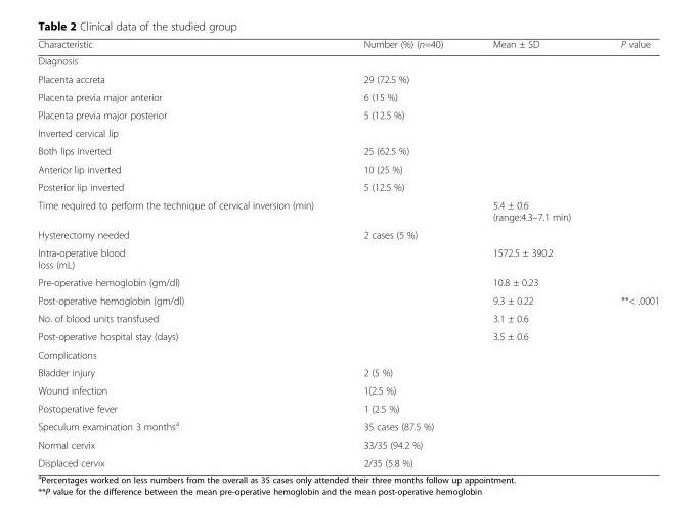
<table><thead><tr><td>Characteristic</td><td>Number (%) (n=40)</td><td>Mean ± SD</td><td>P value</td></tr></thead><tbody><tr><td colspan="4">Diagnosis</td></tr><tr><td>Placenta accreta</td><td>29 (72.5 %)</td><td></td><td></td></tr><tr><td>Placenta previa major anterior</td><td>6 (15 %)</td><td></td><td></td></tr><tr><td>Placenta previa major posterior</td><td>5 (12.5 %)</td><td></td><td></td></tr><tr><td colspan="4">Inverted cervical lip</td></tr><tr><td>Both lips inverted</td><td>25 (62.5 %)</td><td></td><td></td></tr><tr><td>Anterior lip inverted</td><td>10 (25 %)</td><td></td><td></td></tr><tr><td>Posterior lip inverted</td><td>5 (12.5 %)</td><td></td><td></td></tr><tr><td>Time required to perform the technique of cervical inversion (min)</td><td></td><td>5.4 ± 0.6 (range:4.3–7.1 min)</td><td></td></tr><tr><td>Hysterectomy needed</td><td>2 cases (5 %)</td><td></td><td></td></tr><tr><td>Intra-operative blood loss (mL)</td><td></td><td>1572.5 ± 390.2</td><td></td></tr><tr><td>Pre-operative hemoglobin (gm/dl)</td><td></td><td>10.8 ± 0.23</td><td></td></tr><tr><td>Post-operative hemoglobin (gm/dl)</td><td></td><td>9.3 ± 0.22</td><td>**&lt; .0001</td></tr><tr><td>No. of blood units transfused</td><td></td><td>3.1 ± 0.6</td><td></td></tr><tr><td>Post-operative hospital stay (days)</td><td></td><td>3.5 ± 0.6</td><td></td></tr><tr><td colspan="4">Complications</td></tr><tr><td>Bladder injury</td><td>2 (5 %)</td><td></td><td></td></tr><tr><td>Wound infection</td><td>1(2.5 %)</td><td></td><td></td></tr><tr><td>Postoperative fever</td><td>1 (2.5 %)</td><td></td><td></td></tr><tr><td>Speculum examination 3 months<sup>a</sup></td><td>35 cases (87.5 %)</td><td></td><td></td></tr><tr><td>Normal cervix</td><td>33/35 (94.2 %)</td><td></td><td></td></tr><tr><td>Displaced cervix</td><td>2/35 (5.8 %)</td><td></td><td></td></tr></tbody></table>